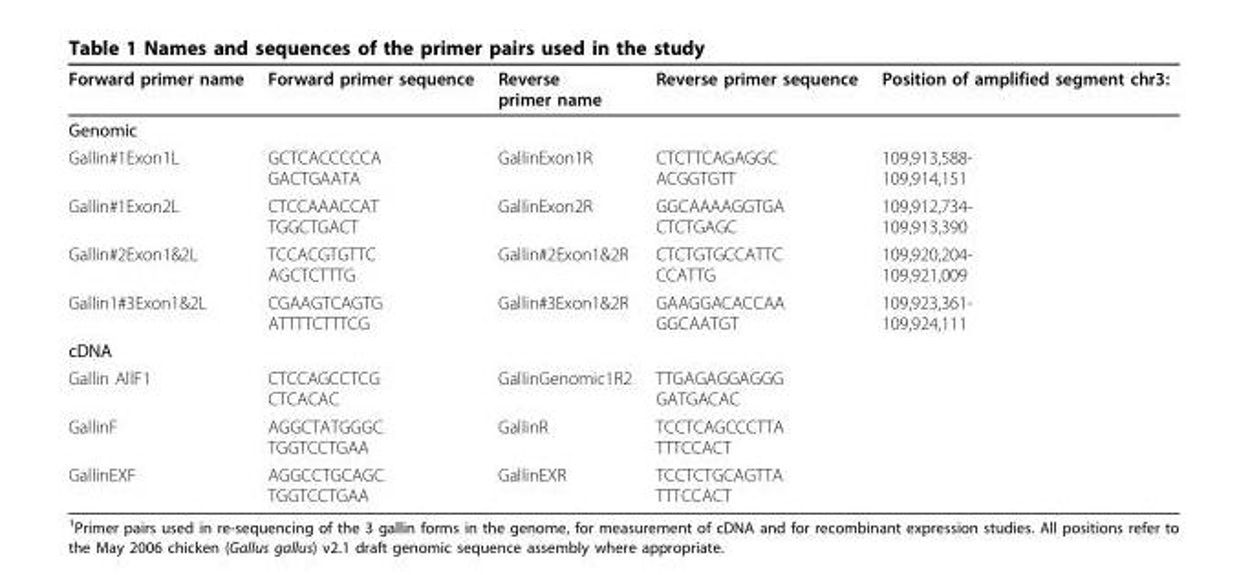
<table><thead><tr><td>Forward primer name</td><td>Forward primer sequence</td><td>Reverse primer name</td><td>Reverse primer sequence</td><td>Position of amplified segment chr3:</td></tr></thead><tbody><tr><td colspan="5">Genomic</td></tr><tr><td>Gallin#1Exon1L</td><td>GCTCACCCCCA GACTGAATA</td><td>GallinExon1R</td><td>CTCTTCAGAGGC ACGGTGTT</td><td>109,913,588- 109,914,151</td></tr><tr><td>Gallin#1Exon2L</td><td>CTCCAAACCAT TGGCTGACT</td><td>GallinExon2R</td><td>GGCAAAAGGTGA CTCTGAGC</td><td>109,912,734- 109,913,390</td></tr><tr><td>Gallin#2Exon1&amp;2L</td><td>TCCACGTGTTC AGCTCTTTG</td><td>Gallin#2Exon1&amp;2R</td><td>CTCTGTGCCATTC CCATTG</td><td>109,920,204- 109,921,009</td></tr><tr><td>Gallin1#3Exon1&amp;2L</td><td>CGAAGTCAGTG ATTTTCTTTCG</td><td>Gallin#3Exon1&amp;2R</td><td>GAAGGACACCAA GGCAATGT</td><td>109,923,361- 109,924,111</td></tr><tr><td colspan="5">cDNA</td></tr><tr><td>Gallin AllF1</td><td>CTCCAGCCTCG CTCACAC</td><td>GallinGenomic1R2</td><td>TTGAGAGGAGGG GATGACAC</td><td></td></tr><tr><td>GallinF</td><td>AGGCTATGGGC TGGTCCTGAA</td><td>GallinR</td><td>TCCTCAGCCCTTA TTTCCACT</td><td></td></tr><tr><td>GallinEXF</td><td>AGGCCTGCAGC TGGTCCTGAA</td><td>GallinEXR</td><td>TCCTCTGCAGTTA TTTCCACT</td><td></td></tr></tbody></table>